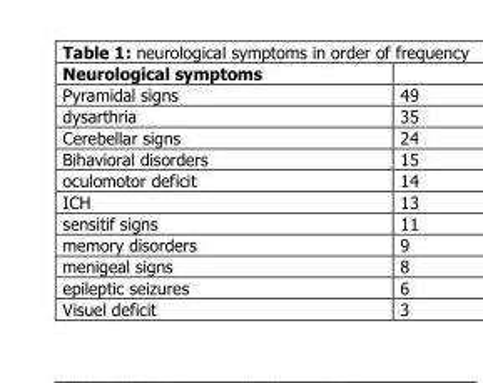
<table><thead><tr><td>Neurological symptoms</td><td></td></tr></thead><tbody><tr><td>Pyramidal signs</td><td>49</td></tr><tr><td>dysarthria</td><td>35</td></tr><tr><td>Cerebellar signs</td><td>24</td></tr><tr><td>Bihavioral disorders</td><td>15</td></tr><tr><td>oculomotor deficit</td><td>14</td></tr><tr><td>ICH</td><td>13</td></tr><tr><td>sensitif signs</td><td>11</td></tr><tr><td>memory disorders</td><td>9</td></tr><tr><td>menigeal signs</td><td>8</td></tr><tr><td>epileptic seizures</td><td>6</td></tr><tr><td>Visuel deficit</td><td>3</td></tr></tbody></table>